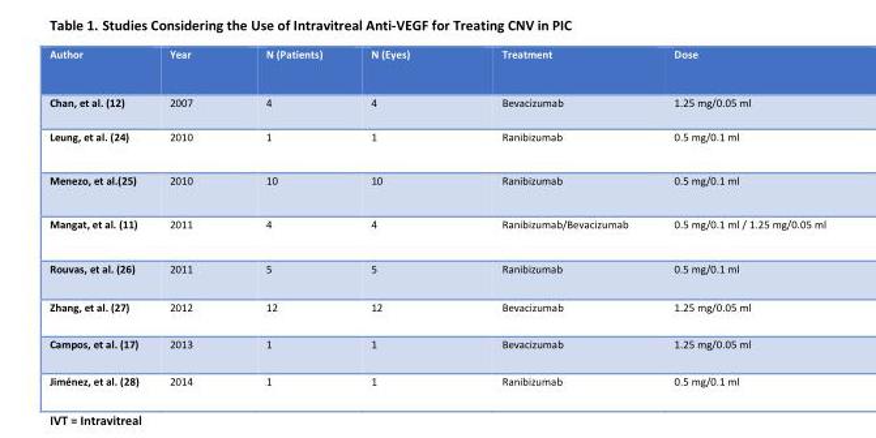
<table><thead><tr><td>Author</td><td>Year</td><td>N (Patients)</td><td>N (Eyes)</td><td>Treatment</td><td>Dose</td></tr></thead><tbody><tr><td>Chan, et al. (12)</td><td>2007</td><td>4</td><td>4</td><td>Bevacizumab</td><td>1.25 mg/0.05 ml</td></tr><tr><td>Leung, et al. (24)</td><td>2010</td><td>1</td><td>1</td><td>Ranibizumab</td><td>0.5 mg/0.1 ml</td></tr><tr><td>Menezo, et al.(25)</td><td>2010</td><td>10</td><td>10</td><td>Ranibizumab</td><td>0.5 mg/0.1 ml</td></tr><tr><td>Mangat, et al. (11)</td><td>2011</td><td>4</td><td>4</td><td>Ranibizumab/Bevacizumab</td><td>0.5 mg/0.1 ml / 1.25 mg/0.05 ml</td></tr><tr><td>Rouvas, et al. (26)</td><td>2011</td><td>5</td><td>5</td><td>Ranibizumab</td><td>0.5 mg/0.1 ml</td></tr><tr><td>Zhang, et al. (27)</td><td>2012</td><td>12</td><td>12</td><td>Bevacizumab</td><td>1.25 mg/0.05 ml</td></tr><tr><td>Campos, et al. (17)</td><td>2013</td><td>1</td><td>1</td><td>Bevacizumab</td><td>1.25 mg/0.05 ml</td></tr><tr><td>Jiménez, et al. (28)</td><td>2014</td><td>1</td><td>1</td><td>Ranibizumab</td><td>0.5 mg/0.1 ml</td></tr></tbody></table>